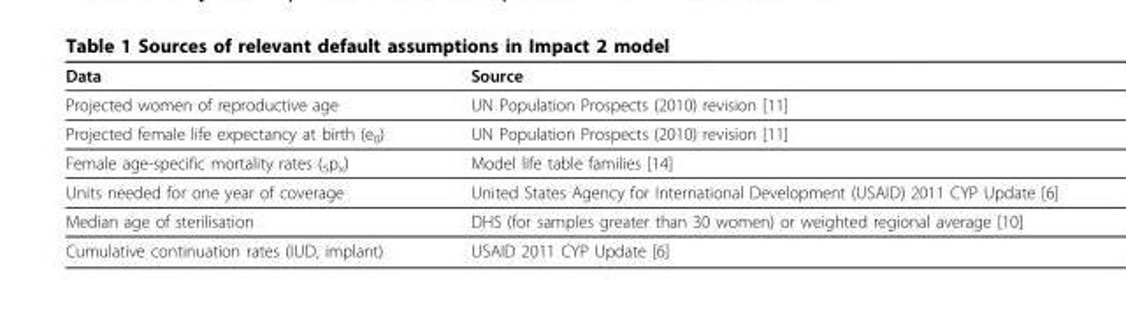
<table><thead><tr><td>Data</td><td>Source</td></tr></thead><tbody><tr><td>Projected women of reproductive age</td><td>UN Population Prospects (2010) revision [11]</td></tr><tr><td>Projected female life expectancy at birth (e<sub>0</sub>)</td><td>UN Population Prospects (2010) revision [11]</td></tr><tr><td>Female age-specific mortality rates (<sub>5</sub>p<sub>x</sub>)</td><td>Model life table families [14]</td></tr><tr><td>Units needed for one year of coverage</td><td>United States Agency for International Development (USAID) 2011 CYP Update [6]</td></tr><tr><td>Median age of sterilisation</td><td>DHS (for samples greater than 30 women) or weighted regional average [10]</td></tr><tr><td>Cumulative continuation rates (IUD, implant)</td><td>USAID 2011 CYP Update [6]</td></tr></tbody></table>